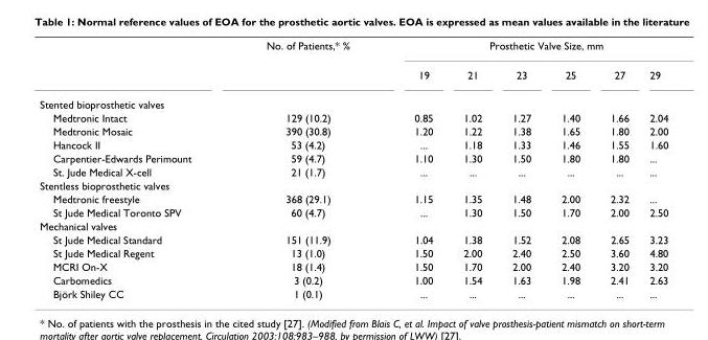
<table><thead><tr><td rowspan="2"></td><td rowspan="2">No. of Patients,* %</td><td colspan="6">Prosthetic Valve Size, mm</td></tr><tr><td>19</td><td>21</td><td>23</td><td>25</td><td>27</td><td>29</td></tr></thead><tbody><tr><td colspan="8">Stented bioprosthetic valves</td></tr><tr><td>Medtronic Intact</td><td>129 (10.2)</td><td>0.85</td><td>1.02</td><td>1.27</td><td>1.40</td><td>1.66</td><td>2.04</td></tr><tr><td>Medtronic Mosaic</td><td>390 (30.8)</td><td>1.20</td><td>1.22</td><td>1.38</td><td>1.65</td><td>1.80</td><td>2.00</td></tr><tr><td>Hancock II</td><td>53 (4.2)</td><td>...</td><td>1.18</td><td>1.33</td><td>1.46</td><td>1.55</td><td>1.60</td></tr><tr><td>Carpentier-Edwards Perimount</td><td>59 (4.7)</td><td>1.10</td><td>1.30</td><td>1.50</td><td>1.80</td><td>1.80</td><td>...</td></tr><tr><td>St. Jude Medical X-cell</td><td>21 (1.7)</td><td>...</td><td>...</td><td>...</td><td>...</td><td>...</td><td>...</td></tr><tr><td colspan="8">Stentless bioprosthetic valves</td></tr><tr><td>Medtronic freestyle</td><td>368 (29.1)</td><td>1.15</td><td>1.35</td><td>1.48</td><td>2.00</td><td>2.32</td><td>...</td></tr><tr><td>St Jude Medical Toronto SPV</td><td>60 (4.7)</td><td>...</td><td>1.30</td><td>1.50</td><td>1.70</td><td>2.00</td><td>2.50</td></tr><tr><td colspan="8">Mechanical valves</td></tr><tr><td>St Jude Medical Standard</td><td>151 (11.9)</td><td>1.04</td><td>1.38</td><td>1.52</td><td>2.08</td><td>2.65</td><td>3.23</td></tr><tr><td>St Jude Medical Regent</td><td>13 (1.0)</td><td>1.50</td><td>2.00</td><td>2.40</td><td>2.50</td><td>3.60</td><td>4.80</td></tr><tr><td>MCRI On-X</td><td>18 (1.4)</td><td>1.50</td><td>1.70</td><td>2.00</td><td>2.40</td><td>3.20</td><td>3.20</td></tr><tr><td>Carbomedics</td><td>3 (0.2)</td><td>1.00</td><td>1.54</td><td>1.63</td><td>1.98</td><td>2.41</td><td>2.63</td></tr><tr><td>Björk Shiley CC</td><td>1 (0.1)</td><td>...</td><td>...</td><td>...</td><td>...</td><td>...</td><td>...</td></tr></tbody></table>